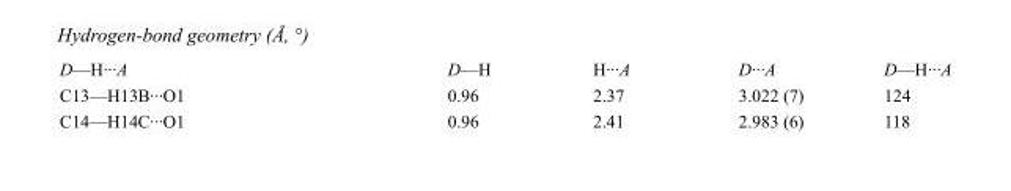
<table><tbody><tr><td>D—H···A</td><td>D—H</td><td>H···A</td><td>D···A</td><td>D—H···A</td></tr><tr><td>C13—H13B···O1</td><td>0.96</td><td>2.37</td><td>3.022 (7)</td><td>124</td></tr><tr><td>C14—H14C···O1</td><td>0.96</td><td>2.41</td><td>2.983 (6)</td><td>118</td></tr></tbody></table>